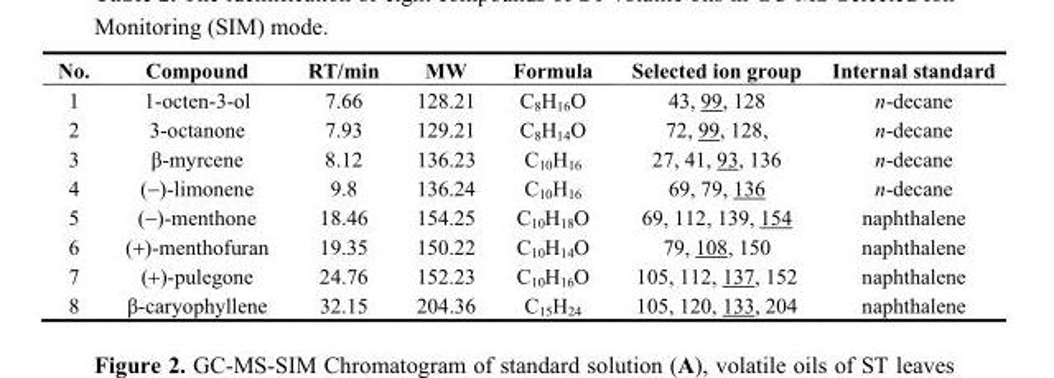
<table><thead><tr><td>No.</td><td>Compound</td><td>RT/min</td><td>MW</td><td>Formula</td><td>Selected ion group</td><td>Internal standard</td></tr></thead><tbody><tr><td>1</td><td>1-octen-3-ol</td><td>7.66</td><td>128.21</td><td>C<sub>8</sub>H<sub>16</sub>O</td><td>43, 99, 128</td><td>n-decane</td></tr><tr><td>2</td><td>3-octanone</td><td>7.93</td><td>129.21</td><td>C<sub>8</sub>H<sub>14</sub>O</td><td>72, 99, 128,</td><td>n-decane</td></tr><tr><td>3</td><td>β-myrcene</td><td>8.12</td><td>136.23</td><td>C<sub>10</sub>H<sub>16</sub></td><td>27, 41, 93, 136</td><td>n-decane</td></tr><tr><td>4</td><td>(−)-limonene</td><td>9.8</td><td>136.24</td><td>C<sub>10</sub>H<sub>16</sub></td><td>69, 79, 136</td><td>n-decane</td></tr><tr><td>5</td><td>(−)-menthone</td><td>18.46</td><td>154.25</td><td>C<sub>10</sub>H<sub>18</sub>O</td><td>69, 112, 139, 154</td><td>naphthalene</td></tr><tr><td>6</td><td>(+)-menthofuran</td><td>19.35</td><td>150.22</td><td>C<sub>10</sub>H<sub>14</sub>O</td><td>79, 108, 150</td><td>naphthalene</td></tr><tr><td>7</td><td>(+)-pulegone</td><td>24.76</td><td>152.23</td><td>C<sub>10</sub>H<sub>16</sub>O</td><td>105, 112, 137, 152</td><td>naphthalene</td></tr><tr><td>8</td><td>β-caryophyllene</td><td>32.15</td><td>204.36</td><td>C<sub>15</sub>H<sub>24</sub></td><td>105, 120, 133, 204</td><td>naphthalene</td></tr></tbody></table>